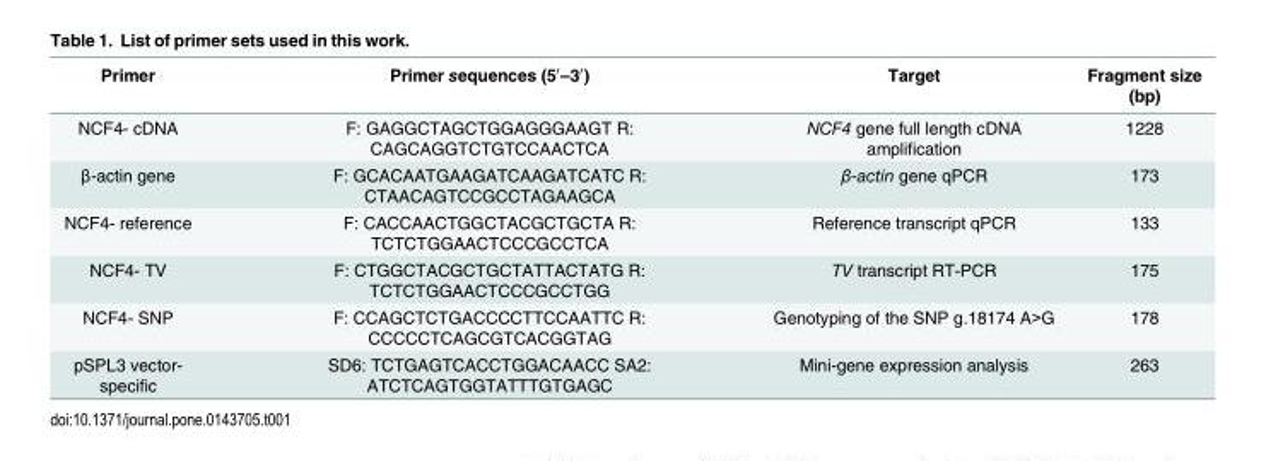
<table><thead><tr><td>Primer</td><td>Primer sequences (5′–3′)</td><td>Target</td><td>Fragment size (bp)</td></tr></thead><tbody><tr><td>NCF4- cDNA</td><td>F: GAGGCTAGCTGGAGGGAAGT R: CAGCAGGTCTGTCCAACTCA</td><td>NCF4 gene full length cDNA amplification</td><td>1228</td></tr><tr><td>β-actin gene</td><td>F: GCACAATGAAGATCAAGATCATC R: CTAACAGTCCGCCTAGAAGCA</td><td>β-actin gene qPCR</td><td>173</td></tr><tr><td>NCF4- reference</td><td>F: CACCAACTGGCTACGCTGCTA R: TCTCTGGAACTCCCGCCTCA</td><td>Reference transcript qPCR</td><td>133</td></tr><tr><td>NCF4- TV</td><td>F: CTGGCTACGCTGCTATTACTATG R: TCTCTGGAACTCCCGCCTGG</td><td>TV transcript RT-PCR</td><td>175</td></tr><tr><td>NCF4- SNP</td><td>F: CCAGCTCTGACCCCTTCCAATTC R: CCCCCTCAGCGTCACGGTAG</td><td>Genotyping of the SNP g.18174 A&gt;G</td><td>178</td></tr><tr><td>pSPL3 vector- specific</td><td>SD6: TCTGAGTCACCTGGACAACC SA2: ATCTCAGTGGTATTTGTGAGC</td><td>Mini-gene expression analysis</td><td>263</td></tr></tbody></table>